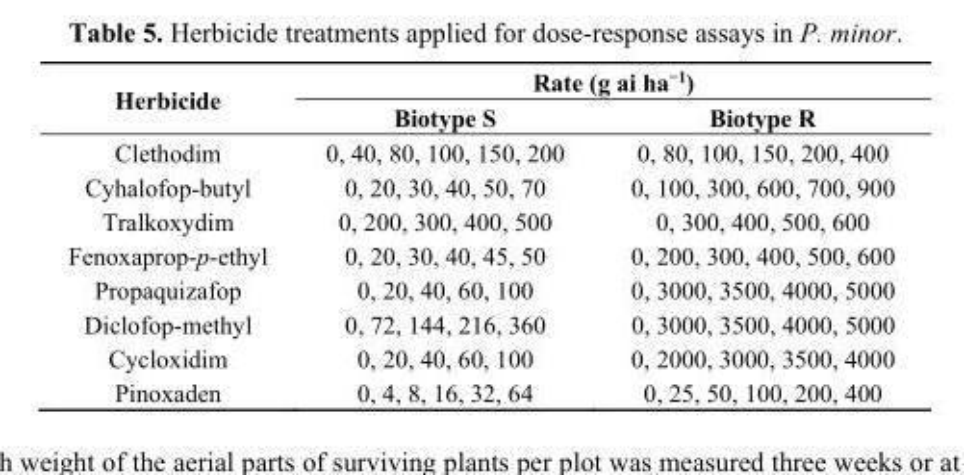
<table><thead><tr><td rowspan="2">Herbicide</td><td colspan="2">Rate (g ai ha<sup>−1</sup>)</td></tr><tr><td>Biotype S</td><td>Biotype R</td></tr></thead><tbody><tr><td>Clethodim</td><td>0, 40, 80, 100, 150, 200</td><td>0, 80, 100, 150, 200, 400</td></tr><tr><td>Cyhalofop-butyl</td><td>0, 20, 30, 40, 50, 70</td><td>0, 100, 300, 600, 700, 900</td></tr><tr><td>Tralkoxydim</td><td>0, 200, 300, 400, 500</td><td>0, 300, 400, 500, 600</td></tr><tr><td>Fenoxaprop-p-ethyl</td><td>0, 20, 30, 40, 45, 50</td><td>0, 200, 300, 400, 500, 600</td></tr><tr><td>Propaquizafop</td><td>0, 20, 40, 60, 100</td><td>0, 3000, 3500, 4000, 5000</td></tr><tr><td>Diclofop-methyl</td><td>0, 72, 144, 216, 360</td><td>0, 3000, 3500, 4000, 5000</td></tr><tr><td>Cycloxidim</td><td>0, 20, 40, 60, 100</td><td>0, 2000, 3000, 3500, 4000</td></tr><tr><td>Pinoxaden</td><td>0, 4, 8, 16, 32, 64</td><td>0, 25, 50, 100, 200, 400</td></tr></tbody></table>